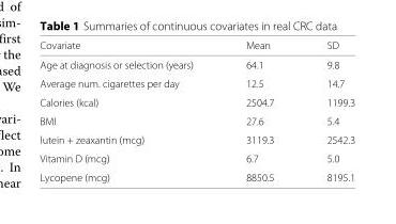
<table><thead><tr><td>Covariate</td><td>Mean</td><td>SD</td></tr></thead><tbody><tr><td>Age at diagnosis or selection (years)</td><td>64.1</td><td>9.8</td></tr><tr><td>Average num. cigarettes per day</td><td>12.5</td><td>14.7</td></tr><tr><td>Calories (kcal)</td><td>2504.7</td><td>1199.3</td></tr><tr><td>BMI</td><td>27.6</td><td>5.4</td></tr><tr><td>lutein + zeaxantin (mcg)</td><td>3119.3</td><td>2542.3</td></tr><tr><td>Vitamin D (mcg)</td><td>6.7</td><td>5.0</td></tr><tr><td>Lycopene (mcg)</td><td>8850.5</td><td>8195.1</td></tr></tbody></table>